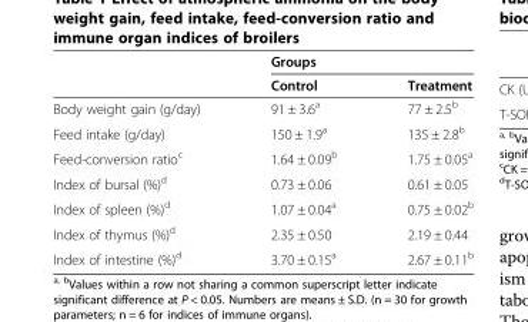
<table><thead><tr><td rowspan="2"></td><td colspan="2">Groups</td></tr><tr><td>Control</td><td>Treatment</td></tr></thead><tbody><tr><td>Body weight gain (g/day)</td><td>91 ± 3.6<sup>a</sup></td><td>77 ± 2.5<sup>b</sup></td></tr><tr><td>Feed intake (g/day)</td><td>150 ± 1.9<sup>a</sup></td><td>135 ± 2.8<sup>b</sup></td></tr><tr><td>Feed-conversion ratio<sup>c</sup></td><td>1.64 ± 0.09<sup>b</sup></td><td>1.75 ± 0.05<sup>a</sup></td></tr><tr><td>Index of bursal (%)<sup>d</sup></td><td>0.73 ± 0.06</td><td>0.61 ± 0.05</td></tr><tr><td>Index of spleen (%)<sup>d</sup></td><td>1.07 ± 0.04<sup>a</sup></td><td>0.75 ± 0.02<sup>b</sup></td></tr><tr><td>Index of thymus (%)<sup>d</sup></td><td>2.35 ± 0.50</td><td>2.19 ± 0.44</td></tr><tr><td>Index of intestine (%)<sup>d</sup></td><td>3.70 ± 0.15<sup>a</sup></td><td>2.67 ± 0.11<sup>b</sup></td></tr></tbody></table>